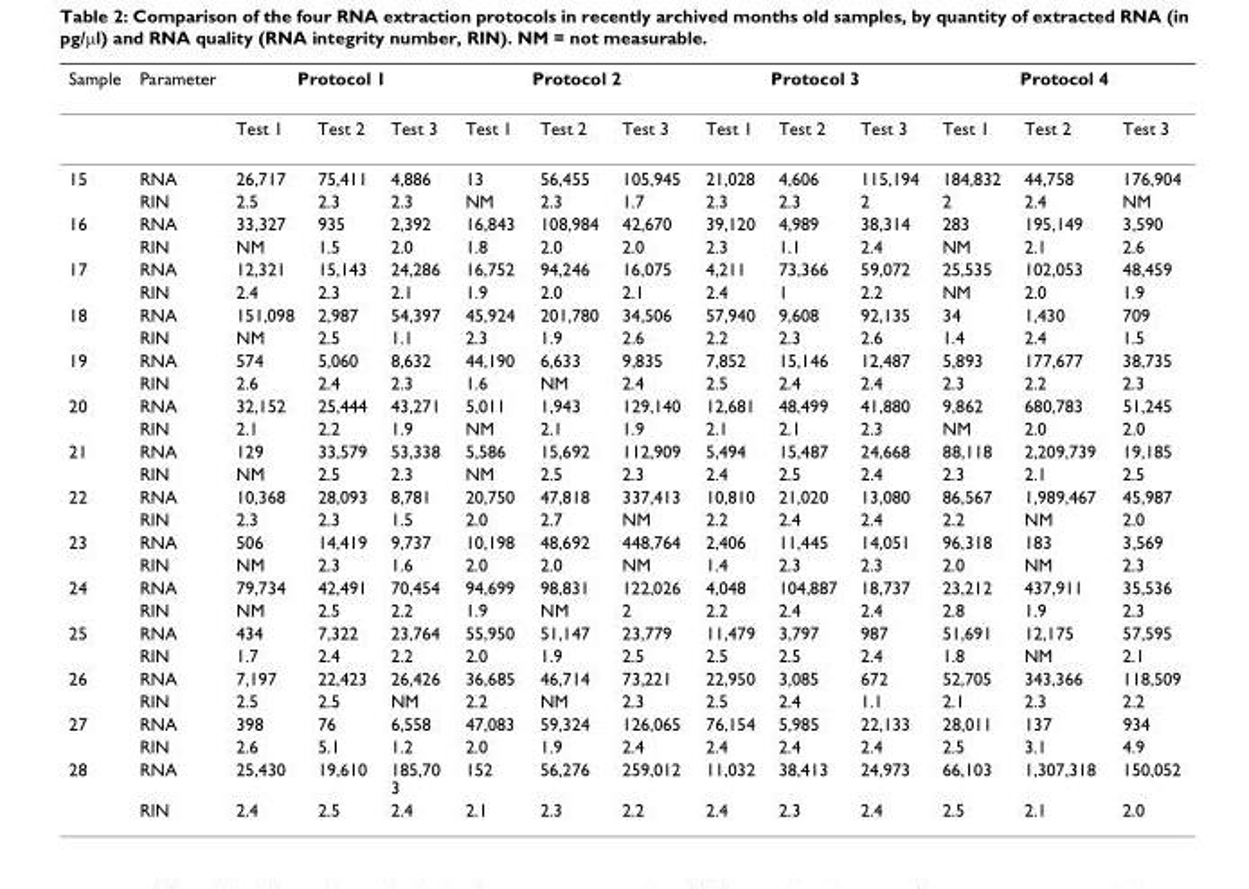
<table><thead><tr><td rowspan="2">Sample</td><td rowspan="2">Parameter</td><td colspan="3">Protocol 1</td><td colspan="3">Protocol 2</td><td colspan="3">Protocol 3</td><td colspan="3">Protocol 4</td></tr><tr><td>Test 1</td><td>Test 2</td><td>Test 3</td><td>Test 1</td><td>Test 2</td><td>Test 3</td><td>Test 1</td><td>Test 2</td><td>Test 3</td><td>Test 1</td><td>Test 2</td><td>Test 3</td></tr></thead><tbody><tr><td rowspan="2">15</td><td>RNA</td><td>26,717</td><td>75,411</td><td>4,886</td><td>13</td><td>56,455</td><td>105,945</td><td>21,028</td><td>4,606</td><td>115,194</td><td>184,832</td><td>44,758</td><td>176,904</td></tr><tr><td>RIN</td><td>2.5</td><td>2.3</td><td>2.3</td><td>NM</td><td>2.3</td><td>1.7</td><td>2.3</td><td>2.3</td><td>2</td><td>2</td><td>2.4</td><td>NM</td></tr><tr><td rowspan="2">16</td><td>RNA</td><td>33,327</td><td>935</td><td>2,392</td><td>16,843</td><td>108,984</td><td>42,670</td><td>39,120</td><td>4,989</td><td>38,314</td><td>283</td><td>195,149</td><td>3,590</td></tr><tr><td>RIN</td><td>NM</td><td>1.5</td><td>2.0</td><td>1.8</td><td>2.0</td><td>2.0</td><td>2.3</td><td>1.1</td><td>2.4</td><td>NM</td><td>2.1</td><td>2.6</td></tr><tr><td rowspan="2">17</td><td>RNA</td><td>12,321</td><td>15,143</td><td>24,286</td><td>16,752</td><td>94,246</td><td>16,075</td><td>4,211</td><td>73,366</td><td>59,072</td><td>25,535</td><td>102,053</td><td>48,459</td></tr><tr><td>RIN</td><td>2.4</td><td>2.3</td><td>2.1</td><td>1.9</td><td>2.0</td><td>2.1</td><td>2.4</td><td>1</td><td>2.2</td><td>NM</td><td>2.0</td><td>1.9</td></tr><tr><td rowspan="2">18</td><td>RNA</td><td>151,098</td><td>2,987</td><td>54,397</td><td>45,924</td><td>201,780</td><td>34,506</td><td>57,940</td><td>9,608</td><td>92,135</td><td>34</td><td>1,430</td><td>709</td></tr><tr><td>RIN</td><td>NM</td><td>2.5</td><td>1.1</td><td>2.3</td><td>1.9</td><td>2.6</td><td>2.2</td><td>2.3</td><td>2.6</td><td>1.4</td><td>2.4</td><td>1.5</td></tr><tr><td rowspan="2">19</td><td>RNA</td><td>574</td><td>5,060</td><td>8,632</td><td>44,190</td><td>6,633</td><td>9,835</td><td>7,852</td><td>15,146</td><td>12,487</td><td>5,893</td><td>177,677</td><td>38,735</td></tr><tr><td>RIN</td><td>2.6</td><td>2.4</td><td>2.3</td><td>1.6</td><td>NM</td><td>2.4</td><td>2.5</td><td>2.4</td><td>2.4</td><td>2.3</td><td>2.2</td><td>2.3</td></tr><tr><td rowspan="2">20</td><td>RNA</td><td>32,152</td><td>25,444</td><td>43,271</td><td>5,011</td><td>1,943</td><td>129,140</td><td>12,681</td><td>48,499</td><td>41,880</td><td>9,862</td><td>680,783</td><td>51,245</td></tr><tr><td>RIN</td><td>2.1</td><td>2.2</td><td>1.9</td><td>NM</td><td>2.1</td><td>1.9</td><td>2.1</td><td>2.1</td><td>2.3</td><td>NM</td><td>2.0</td><td>2.0</td></tr><tr><td rowspan="2">21</td><td>RNA</td><td>129</td><td>33,579</td><td>53,338</td><td>5,586</td><td>15,692</td><td>112,909</td><td>5,494</td><td>15,487</td><td>24,668</td><td>88,118</td><td>2,209,739</td><td>19,185</td></tr><tr><td>RIN</td><td>NM</td><td>2.5</td><td>2.3</td><td>NM</td><td>2.5</td><td>2.3</td><td>2.4</td><td>2.5</td><td>2.4</td><td>2.3</td><td>2.1</td><td>2.5</td></tr><tr><td rowspan="2">22</td><td>RNA</td><td>10,368</td><td>28,093</td><td>8,781</td><td>20,750</td><td>47,818</td><td>337,413</td><td>10,810</td><td>21,020</td><td>13,080</td><td>86,567</td><td>1,989,467</td><td>45,987</td></tr><tr><td>RIN</td><td>2.3</td><td>2.3</td><td>1.5</td><td>2.0</td><td>2.7</td><td>NM</td><td>2.2</td><td>2.4</td><td>2.4</td><td>2.2</td><td>NM</td><td>2.0</td></tr><tr><td rowspan="2">23</td><td>RNA</td><td>506</td><td>14,419</td><td>9,737</td><td>10,198</td><td>48,692</td><td>448,764</td><td>2,406</td><td>11,445</td><td>14,051</td><td>96,318</td><td>183</td><td>3,569</td></tr><tr><td>RIN</td><td>NM</td><td>2.3</td><td>1.6</td><td>2.0</td><td>2.0</td><td>NM</td><td>1.4</td><td>2.3</td><td>2.3</td><td>2.0</td><td>NM</td><td>2.3</td></tr><tr><td rowspan="2">24</td><td>RNA</td><td>79,734</td><td>42,491</td><td>70,454</td><td>94,699</td><td>98,831</td><td>122,026</td><td>4,048</td><td>104,887</td><td>18,737</td><td>23,212</td><td>437,911</td><td>35,536</td></tr><tr><td>RIN</td><td>NM</td><td>2.5</td><td>2.2</td><td>1.9</td><td>NM</td><td>2</td><td>2.2</td><td>2.4</td><td>2.4</td><td>2.8</td><td>1.9</td><td>2.3</td></tr><tr><td rowspan="2">25</td><td>RNA</td><td>434</td><td>7,322</td><td>23,764</td><td>55,950</td><td>51,147</td><td>23,779</td><td>11,479</td><td>3,797</td><td>987</td><td>51,691</td><td>12,175</td><td>57,595</td></tr><tr><td>RIN</td><td>1.7</td><td>2.4</td><td>2.2</td><td>2.0</td><td>1.9</td><td>2.5</td><td>2.5</td><td>2.5</td><td>2.4</td><td>1.8</td><td>NM</td><td>2.1</td></tr><tr><td rowspan="2">26</td><td>RNA</td><td>7,197</td><td>22,423</td><td>26,426</td><td>36,685</td><td>46,714</td><td>73,221</td><td>22,950</td><td>3,085</td><td>672</td><td>52,705</td><td>343,366</td><td>118,509</td></tr><tr><td>RIN</td><td>2.5</td><td>2.5</td><td>NM</td><td>2.2</td><td>NM</td><td>2.3</td><td>2.5</td><td>2.4</td><td>1.1</td><td>2.1</td><td>2.3</td><td>2.2</td></tr><tr><td rowspan="2">27</td><td>RNA</td><td>398</td><td>76</td><td>6,558</td><td>47,083</td><td>59,324</td><td>126,065</td><td>76,154</td><td>5,985</td><td>22,133</td><td>28,011</td><td>137</td><td>934</td></tr><tr><td>RIN</td><td>2.6</td><td>5.1</td><td>1.2</td><td>2.0</td><td>1.9</td><td>2.4</td><td>2.4</td><td>2.4</td><td>2.4</td><td>2.5</td><td>3.1</td><td>4.9</td></tr><tr><td rowspan="2">28</td><td>RNA</td><td>25,430</td><td>19,610</td><td>185,70 3</td><td>152</td><td>56,276</td><td>259,012</td><td>11,032</td><td>38,413</td><td>24,973</td><td>66,103</td><td>1,307,318</td><td>150,052</td></tr><tr><td>RIN</td><td>2.4</td><td>2.5</td><td>2.4</td><td>2.1</td><td>2.3</td><td>2.2</td><td>2.4</td><td>2.3</td><td>2.4</td><td>2.5</td><td>2.1</td><td>2.0</td></tr></tbody></table>